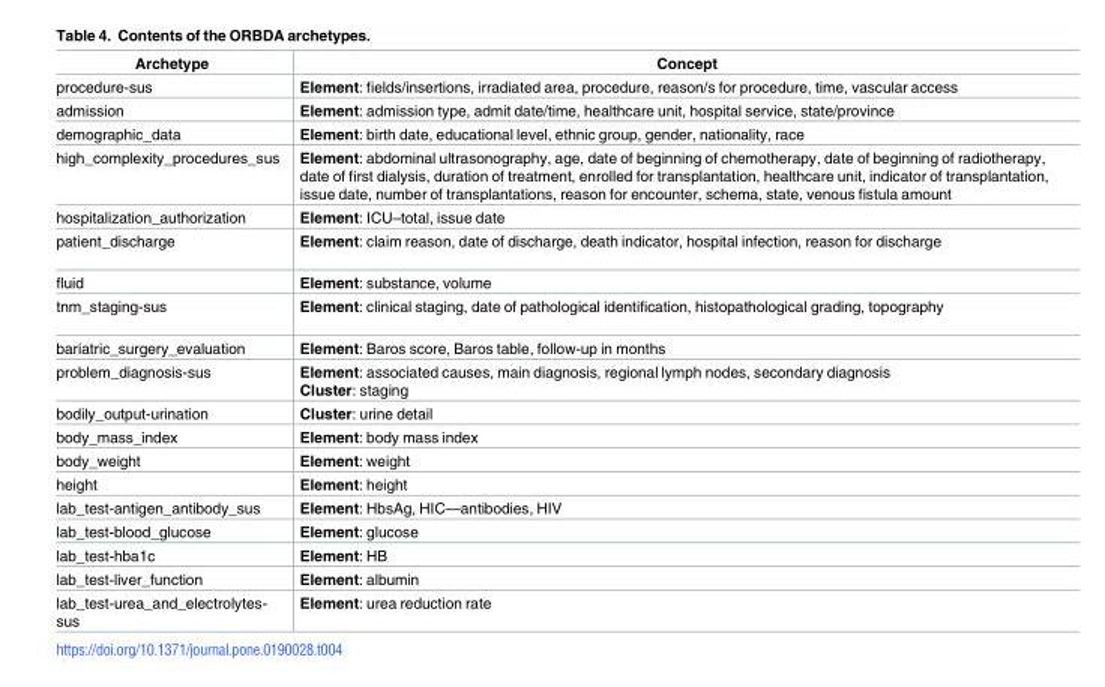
<table><thead><tr><td>Archetype</td><td>Concept</td></tr></thead><tbody><tr><td>procedure-sus</td><td>Element: fields/insertions, irradiated area, procedure, reason/s for procedure, time, vascular access</td></tr><tr><td>admission</td><td>Element: admission type, admit date/time, healthcare unit, hospital service, state/province</td></tr><tr><td>demographic_data</td><td>Element: birth date, educational level, ethnic group, gender, nationality, race</td></tr><tr><td>high_complexity_procedures_sus</td><td>Element: abdominal ultrasonography, age, date of beginning of chemotherapy, date of beginning of radiotherapy, date of first dialysis, duration of treatment, enrolled for transplantation, healthcare unit, indicator of transplantation, issue date, number of transplantations, reason for encounter, schema, state, venous fistula amount</td></tr><tr><td>hospitalization_authorization</td><td>Element: ICU–total, issue date</td></tr><tr><td>patient_discharge</td><td>Element: claim reason, date of discharge, death indicator, hospital infection, reason for discharge</td></tr><tr><td>fluid</td><td>Element: substance, volume</td></tr><tr><td>tnm_staging-sus</td><td>Element: clinical staging, date of pathological identification, histopathological grading, topography</td></tr><tr><td>bariatric_surgery_evaluation</td><td>Element: Baros score, Baros table, follow-up in months</td></tr><tr><td>problem_diagnosis-sus</td><td>Element: associated causes, main diagnosis, regional lymph nodes, secondary diagnosis Cluster: staging</td></tr><tr><td>bodily_output-urination</td><td>Cluster: urine detail</td></tr><tr><td>body_mass_index</td><td>Element: body mass index</td></tr><tr><td>body_weight</td><td>Element: weight</td></tr><tr><td>height</td><td>Element: height</td></tr><tr><td>lab_test-antigen_antibody_sus</td><td>Element: HbsAg, HIC—antibodies, HIV</td></tr><tr><td>lab_test-blood_glucose</td><td>Element: glucose</td></tr><tr><td>lab_test-hba1c</td><td>Element: HB</td></tr><tr><td>lab_test-liver_function</td><td>Element: albumin</td></tr><tr><td>lab_test-urea_and_electrolytes- sus</td><td>Element: urea reduction rate</td></tr></tbody></table>